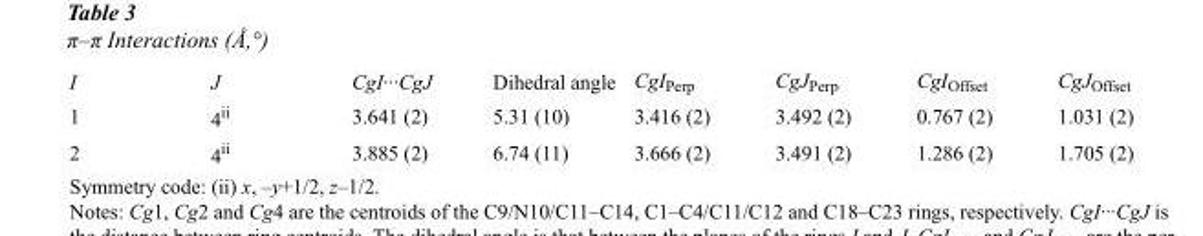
<table><tbody><tr><td>I</td><td>J</td><td>CgI···CgJ</td><td>Dihedral angle</td><td>CgI<sub>Perp</sub></td><td>CgJ<sub>Perp</sub></td><td>CgI<sub>Offset</sub></td><td>CgJ<sub>Offset</sub></td></tr><tr><td>1</td><td>4<sup>ii</sup></td><td>3.641 (2)</td><td>5.31 (10)</td><td>3.416 (2)</td><td>3.492 (2)</td><td>0.767 (2)</td><td>1.031 (2)</td></tr><tr><td>2</td><td>4<sup>ii</sup></td><td>3.885 (2)</td><td>6.74 (11)</td><td>3.666 (2)</td><td>3.491 (2)</td><td>1.286 (2)</td><td>1.705 (2)</td></tr></tbody></table>